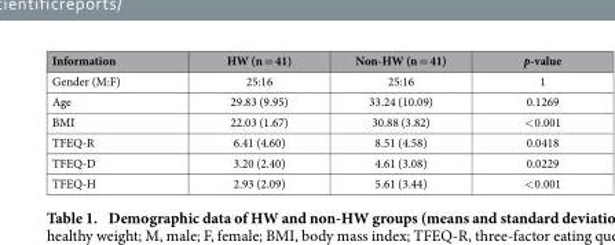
<table><thead><tr><td>Information</td><td>HW (n = 41)</td><td>Non-HW (n = 41)</td><td>p-value</td></tr></thead><tbody><tr><td>Gender (M:F)</td><td>25:16</td><td>25:16</td><td>1</td></tr><tr><td>Age</td><td>29.83 (9.95)</td><td>33.24 (10.09)</td><td>0.1269</td></tr><tr><td>BMI</td><td>22.03 (1.67)</td><td>30.88 (3.82)</td><td>&lt; 0.001</td></tr><tr><td>TFEQ-R</td><td>6.41 (4.60)</td><td>8.51 (4.58)</td><td>0.0418</td></tr><tr><td>TFEQ-D</td><td>3.20 (2.40)</td><td>4.61 (3.08)</td><td>0.0229</td></tr><tr><td>TFEQ-H</td><td>2.93 (2.09)</td><td>5.61 (3.44)</td><td>&lt; 0.001</td></tr></tbody></table>